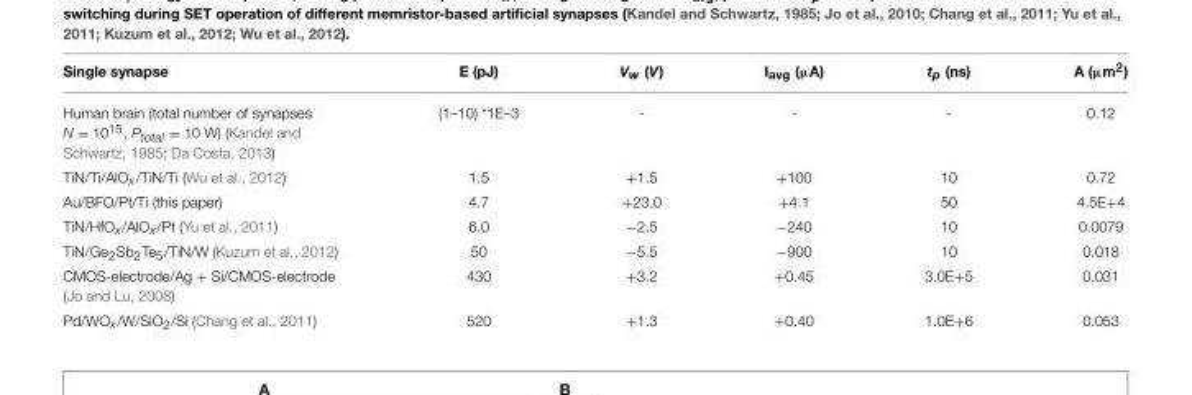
<table><thead><tr><td>Single synapse</td><td>E (pJ)</td><td>V<sub>w</sub> (V)</td><td>I<sub>avg</sub> (µA)</td><td>t<sub>p</sub> (ns)</td><td>A (µm<sup>2</sup>)</td></tr></thead><tbody><tr><td>Human brain (total number of synapses N = 10<sup>15</sup>, P<sub>total</sub> = 10 W) (Kandel and Schwartz, 1985; Da Costa, 2013)</td><td>(1–10) *1E–3</td><td>-</td><td>-</td><td>-</td><td>0.12</td></tr><tr><td>TiN/Ti/AlO<sub>x</sub>/TiN/Ti (Wu et al., 2012)</td><td>1.5</td><td>+1.5</td><td>+100</td><td>10</td><td>0.72</td></tr><tr><td>Au/BFO/Pt/Ti (this paper)</td><td>4.7</td><td>+23.0</td><td>+4.1</td><td>50</td><td>4.5E+4</td></tr><tr><td>TiN/HfO<sub>x</sub>/AlO<sub>x</sub>/Pt (Yu et al., 2011)</td><td>6.0</td><td>−2.5</td><td>−240</td><td>10</td><td>0.0079</td></tr><tr><td>TiN/Ge<sub>2</sub>Sb<sub>2</sub>Te<sub>5</sub>/TiN/W (Kuzum et al., 2012)</td><td>50</td><td>−5.5</td><td>−900</td><td>10</td><td>0.018</td></tr><tr><td>CMOS-electrode/Ag + Si/CMOS-electrode (Jo and Lu, 2008)</td><td>430</td><td>+3.2</td><td>+0.45</td><td>3.0E+5</td><td>0.031</td></tr><tr><td>Pd/WO<sub>x</sub>/W/SiO<sub>2</sub>/Si (Chang et al., 2011)</td><td>520</td><td>+1.3</td><td>+0.40</td><td>1.0E+6</td><td>0.053</td></tr></tbody></table>